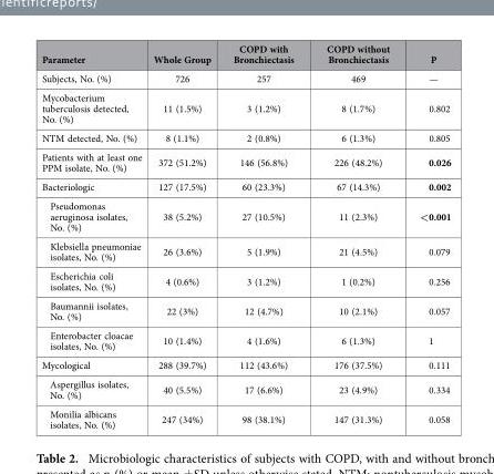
<table><thead><tr><td>Parameter</td><td>Whole Group</td><td>COPD with Bronchiectasis</td><td>COPD without Bronchiectasis</td><td>P</td></tr></thead><tbody><tr><td>Subjects, No. (%)</td><td>726</td><td>257</td><td>469</td><td>—</td></tr><tr><td>Mycobacterium tuberculosis detected, No. (%)</td><td>11 (1.5%)</td><td>3 (1.2%)</td><td>8 (1.7%)</td><td>0.802</td></tr><tr><td>NTM detected, No. (%)</td><td>8 (1.1%)</td><td>2 (0.8%)</td><td>6 (1.3%)</td><td>0.805</td></tr><tr><td>Patients with at least one PPM isolate, No. (%)</td><td>372 (51.2%)</td><td>146 (56.8%)</td><td>226 (48.2%)</td><td>0.026</td></tr><tr><td>Bacteriologic</td><td>127 (17.5%)</td><td>60 (23.3%)</td><td>67 (14.3%)</td><td>0.002</td></tr><tr><td>Pseudomonas aeruginosa isolates, No. (%)</td><td>38 (5.2%)</td><td>27 (10.5%)</td><td>11 (2.3%)</td><td>&lt;0.001</td></tr><tr><td>Klebsiella pneumoniae isolates, No. (%)</td><td>26 (3.6%)</td><td>5 (1.9%)</td><td>21 (4.5%)</td><td>0.079</td></tr><tr><td>Escherichia coli isolates, No. (%)</td><td>4 (0.6%)</td><td>3 (1.2%)</td><td>1 (0.2%)</td><td>0.256</td></tr><tr><td>Baumannii isolates, No. (%)</td><td>22 (3%)</td><td>12 (4.7%)</td><td>10 (2.1%)</td><td>0.057</td></tr><tr><td>Enterobacter cloacae isolates, No. (%)</td><td>10 (1.4%)</td><td>4 (1.6%)</td><td>6 (1.3%)</td><td>1</td></tr><tr><td>Mycological</td><td>288 (39.7%)</td><td>112 (43.6%)</td><td>176 (37.5%)</td><td>0.111</td></tr><tr><td>Aspergillus isolates, No. (%)</td><td>40 (5.5%)</td><td>17 (6.6%)</td><td>23 (4.9%)</td><td>0.334</td></tr><tr><td>Monilia albicans isolates, No. (%)</td><td>247 (34%)</td><td>98 (38.1%)</td><td>147 (31.3%)</td><td>0.058</td></tr></tbody></table>